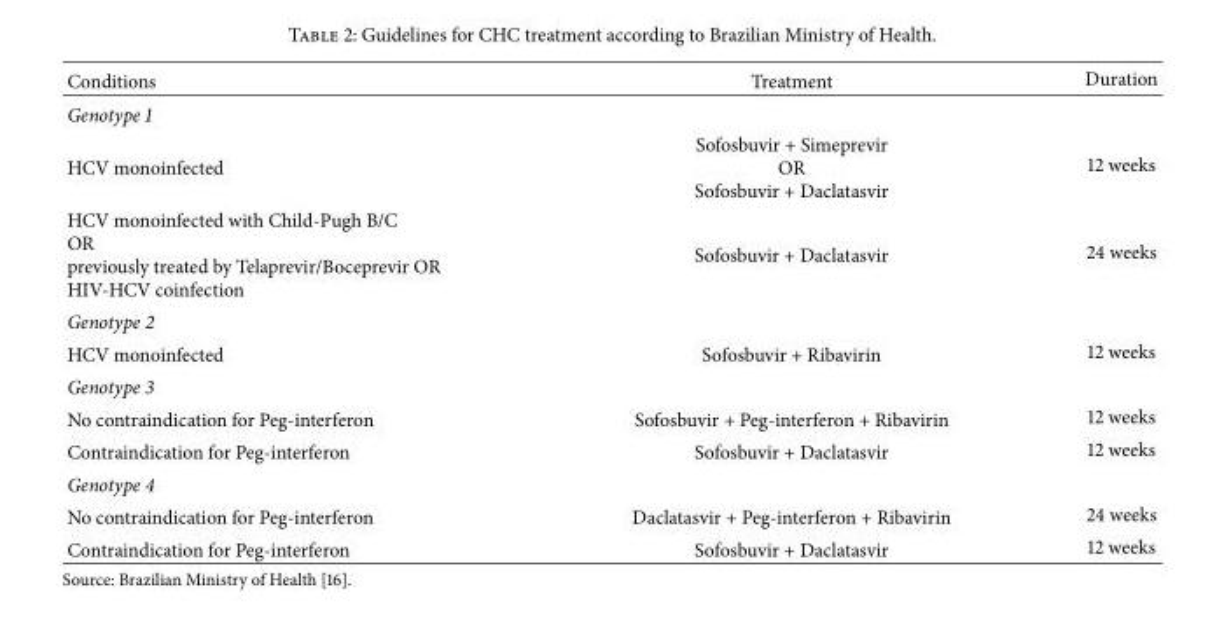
<table><thead><tr><td>Conditions</td><td>Treatment</td><td>Duration</td></tr></thead><tbody><tr><td colspan="3">Genotype 1</td></tr><tr><td>HCV monoinfected</td><td>Sofosbuvir + Simeprevir OR Sofosbuvir + Daclatasvir</td><td>12 weeks</td></tr><tr><td>HCV monoinfected with Child-Pugh B/C OR previously treated by Telaprevir/Boceprevir OR HIV-HCV coinfection</td><td>Sofosbuvir + Daclatasvir</td><td>24 weeks</td></tr><tr><td colspan="3">Genotype 2</td></tr><tr><td>HCV monoinfected</td><td>Sofosbuvir + Ribavirin</td><td>12 weeks</td></tr><tr><td colspan="3">Genotype 3</td></tr><tr><td>No contraindication for Peg-interferon</td><td>Sofosbuvir + Peg-interferon + Ribavirin</td><td>12 weeks</td></tr><tr><td>Contraindication for Peg-interferon</td><td>Sofosbuvir + Daclatasvir</td><td>12 weeks</td></tr><tr><td colspan="3">Genotype 4</td></tr><tr><td>No contraindication for Peg-interferon</td><td>Daclatasvir + Peg-interferon + Ribavirin</td><td>24 weeks</td></tr><tr><td>Contraindication for Peg-interferon</td><td>Sofosbuvir + Daclatasvir</td><td>12 weeks</td></tr></tbody></table>